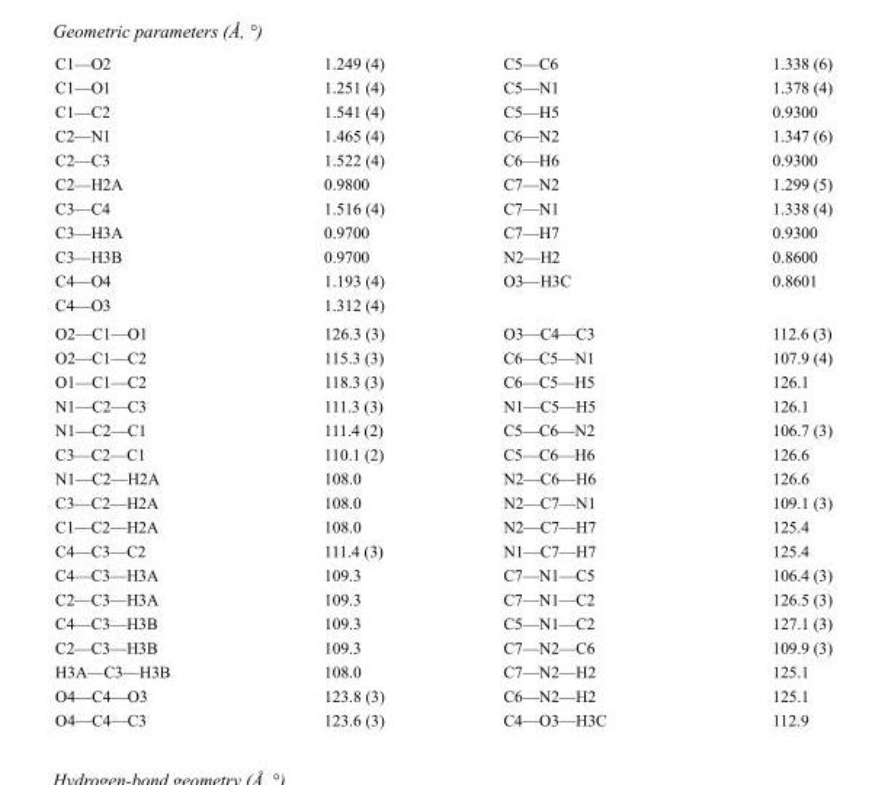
<table><tbody><tr><td>C1—O2</td><td>1.249 (4)</td><td>C5—C6</td><td>1.338 (6)</td></tr><tr><td>C1—O1</td><td>1.251 (4)</td><td>C5—N1</td><td>1.378 (4)</td></tr><tr><td>C1—C2</td><td>1.541 (4)</td><td>C5—H5</td><td>0.9300</td></tr><tr><td>C2—N1</td><td>1.465 (4)</td><td>C6—N2</td><td>1.347 (6)</td></tr><tr><td>C2—C3</td><td>1.522 (4)</td><td>C6—H6</td><td>0.9300</td></tr><tr><td>C2—H2A</td><td>0.9800</td><td>C7—N2</td><td>1.299 (5)</td></tr><tr><td>C3—C4</td><td>1.516 (4)</td><td>C7—N1</td><td>1.338 (4)</td></tr><tr><td>C3—H3A</td><td>0.9700</td><td>C7—H7</td><td>0.9300</td></tr><tr><td>C3—H3B</td><td>0.9700</td><td>N2—H2</td><td>0.8600</td></tr><tr><td>C4—O4</td><td>1.193 (4)</td><td>O3—H3C</td><td>0.8601</td></tr><tr><td>C4—O3</td><td>1.312 (4)</td><td></td><td></td></tr><tr><td>O2—C1—O1</td><td>126.3 (3)</td><td>O3—C4—C3</td><td>112.6 (3)</td></tr><tr><td>O2—C1—C2</td><td>115.3 (3)</td><td>C6—C5—N1</td><td>107.9 (4)</td></tr><tr><td>O1—C1—C2</td><td>118.3 (3)</td><td>C6—C5—H5</td><td>126.1</td></tr><tr><td>N1—C2—C3</td><td>111.3 (3)</td><td>N1—C5—H5</td><td>126.1</td></tr><tr><td>N1—C2—C1</td><td>111.4 (2)</td><td>C5—C6—N2</td><td>106.7 (3)</td></tr><tr><td>C3—C2—C1</td><td>110.1 (2)</td><td>C5—C6—H6</td><td>126.6</td></tr><tr><td>N1—C2—H2A</td><td>108.0</td><td>N2—C6—H6</td><td>126.6</td></tr><tr><td>C3—C2—H2A</td><td>108.0</td><td>N2—C7—N1</td><td>109.1 (3)</td></tr><tr><td>C1—C2—H2A</td><td>108.0</td><td>N2—C7—H7</td><td>125.4</td></tr><tr><td>C4—C3—C2</td><td>111.4 (3)</td><td>N1—C7—H7</td><td>125.4</td></tr><tr><td>C4—C3—H3A</td><td>109.3</td><td>C7—N1—C5</td><td>106.4 (3)</td></tr><tr><td>C2—C3—H3A</td><td>109.3</td><td>C7—N1—C2</td><td>126.5 (3)</td></tr><tr><td>C4—C3—H3B</td><td>109.3</td><td>C5—N1—C2</td><td>127.1 (3)</td></tr><tr><td>C2—C3—H3B</td><td>109.3</td><td>C7—N2—C6</td><td>109.9 (3)</td></tr><tr><td>H3A—C3—H3B</td><td>108.0</td><td>C7—N2—H2</td><td>125.1</td></tr><tr><td>O4—C4—O3</td><td>123.8 (3)</td><td>C6—N2—H2</td><td>125.1</td></tr><tr><td>O4—C4—C3</td><td>123.6 (3)</td><td>C4—O3—H3C</td><td>112.9</td></tr></tbody></table>